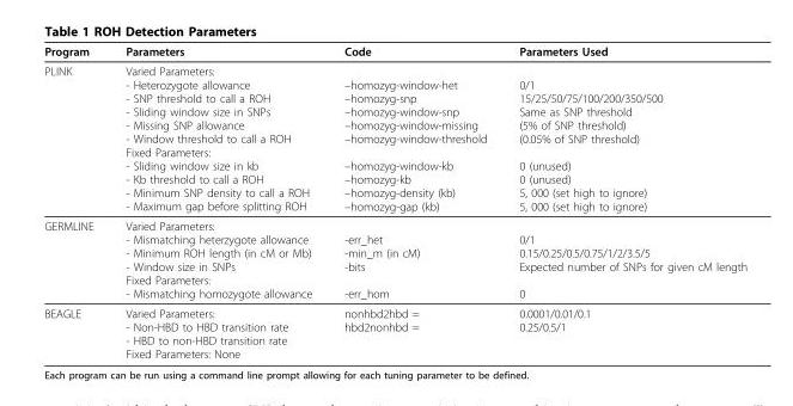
<table><thead><tr><td>Program</td><td>Parameters</td><td>Code</td><td>Parameters Used</td></tr></thead><tbody><tr><td>PLINK</td><td>Varied Parameters: - Heterozygote allowance - SNP threshold to call a ROH - Sliding window size in SNPs - Missing SNP allowance - Window threshold to call a ROH Fixed Parameters: - Sliding window size in kb - Kb threshold to call a ROH - Minimum SNP density to call a ROH - Maximum gap before splitting ROH</td><td>–homozyg-window-het –homozyg-snp –homozyg-window-snp –homozyg-window-missing –homozyg-window-threshold –homozyg-window-kb –homozyg-kb –homozyg-density (kb) –homozyg-gap (kb)</td><td>0/1 15/25/50/75/100/200/350/500 Same as SNP threshold (5% of SNP threshold) (0.05% of SNP threshold) 0 (unused) 0 (unused) 5, 000 (set high to ignore) 5, 000 (set high to ignore)</td></tr><tr><td>GERMLINE</td><td>Varied Parameters: - Mismatching heterzygote allowance - Minimum ROH length (in cM or Mb) - Window size in SNPs Fixed Parameters: - Mismatching homozygote allowance</td><td>-err_het -min_m (in cM) -bits -err_hom</td><td>0/1 0.15/0.25/0.5/0.75/1/2/3.5/5 Expected number of SNPs for given cM length 0</td></tr><tr><td>BEAGLE</td><td>Varied Parameters: - Non-HBD to HBD transition rate - HBD to non-HBD transition rate Fixed Parameters: None</td><td>nonhbd2hbd = hbd2nonhbd =</td><td>0.0001/0.01/0.1 0.25/0.5/1</td></tr></tbody></table>